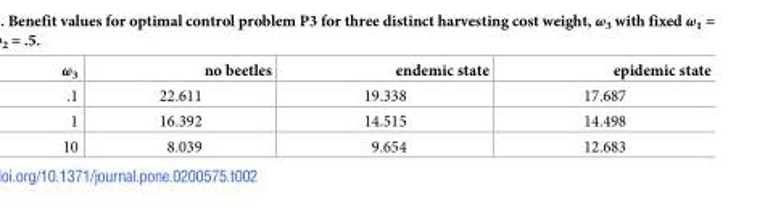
<table><thead><tr><td>ω<sub>3</sub></td><td>no beetles</td><td>endemic state</td><td>epidemic state</td></tr></thead><tbody><tr><td>.1</td><td>22.611</td><td>19.338</td><td>17.687</td></tr><tr><td>1</td><td>16.392</td><td>14.515</td><td>14.498</td></tr><tr><td>10</td><td>8.039</td><td>9.654</td><td>12.683</td></tr></tbody></table>